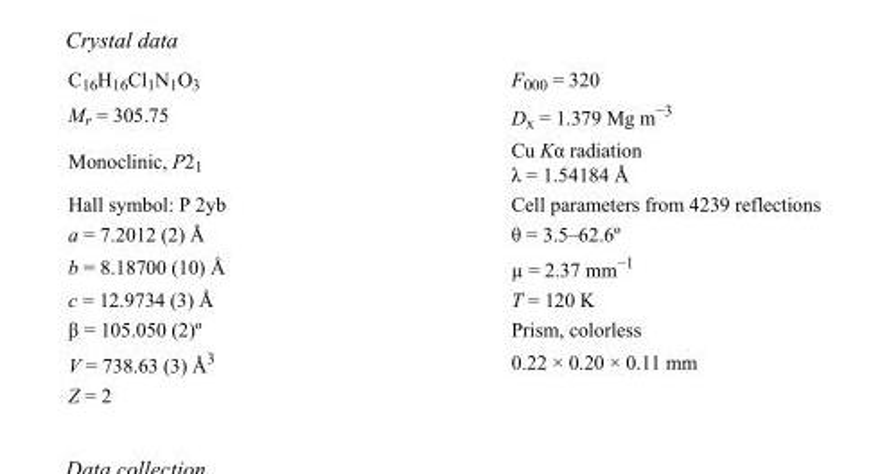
<table><tbody><tr><td>C16H16Cl1N1O3</td><td>F000 = 320</td></tr><tr><td>M<sub>r</sub> = 305.75</td><td>D<sub>x</sub> = 1.379 Mg m<sup>−3</sup></td></tr><tr><td>Monoclinic, P2<sub>1</sub></td><td>Cu Kα radiation λ = 1.54184 Å</td></tr><tr><td>Hall symbol: P 2yb</td><td>Cell parameters from 4239 reflections</td></tr><tr><td>a = 7.2012 (2) Å</td><td>θ = 3.5–62.6º</td></tr><tr><td>b = 8.18700 (10) Å</td><td>µ = 2.37 mm<sup>−1</sup></td></tr><tr><td>c = 12.9734 (3) Å</td><td>T = 120 K</td></tr><tr><td>β = 105.050 (2)º</td><td>Prism, colorless</td></tr><tr><td>V = 738.63 (3) Å<sup>3</sup></td><td>0.22 × 0.20 × 0.11 mm</td></tr><tr><td>Z = 2</td><td></td></tr></tbody></table>